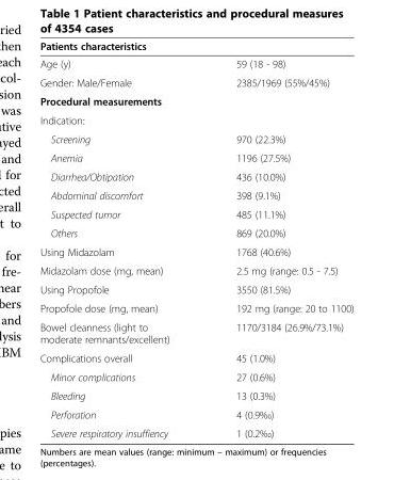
<table><thead><tr><td colspan="2">Patients characteristics</td></tr><tr><td>Age (y)</td><td>59 (18 - 98)</td></tr></thead><tbody><tr><td>Gender: Male/Female</td><td>2385/1969 (55%/45%)</td></tr><tr><td colspan="2">Procedural measurements</td></tr><tr><td colspan="2">Indication:</td></tr><tr><td>Screening</td><td>970 (22.3%)</td></tr><tr><td>Anemia</td><td>1196 (27.5%)</td></tr><tr><td>Diarrhea/Obtipation</td><td>436 (10.0%)</td></tr><tr><td>Abdominal discomfort</td><td>398 (9.1%)</td></tr><tr><td>Suspected tumor</td><td>485 (11.1%)</td></tr><tr><td>Others</td><td>869 (20.0%)</td></tr><tr><td>Using Midazolam</td><td>1768 (40.6%)</td></tr><tr><td>Midazolam dose (mg, mean)</td><td>2.5 mg (range: 0.5 - 7.5)</td></tr><tr><td>Using Propofole</td><td>3550 (81.5%)</td></tr><tr><td>Propofole dose (mg, mean)</td><td>192 mg (range: 20 to 1100)</td></tr><tr><td>Bowel cleanness (light to moderate remnants/excellent)</td><td>1170/3184 (26.9%/73.1%)</td></tr><tr><td>Complications overall</td><td>45 (1.0%)</td></tr><tr><td>Minor complications</td><td>27 (0.6%)</td></tr><tr><td>Bleeding</td><td>13 (0.3%)</td></tr><tr><td>Perforation</td><td>4 (0.9‰)</td></tr><tr><td>Severe respiratory insuffiency</td><td>1 (0.2‰)</td></tr></tbody></table>